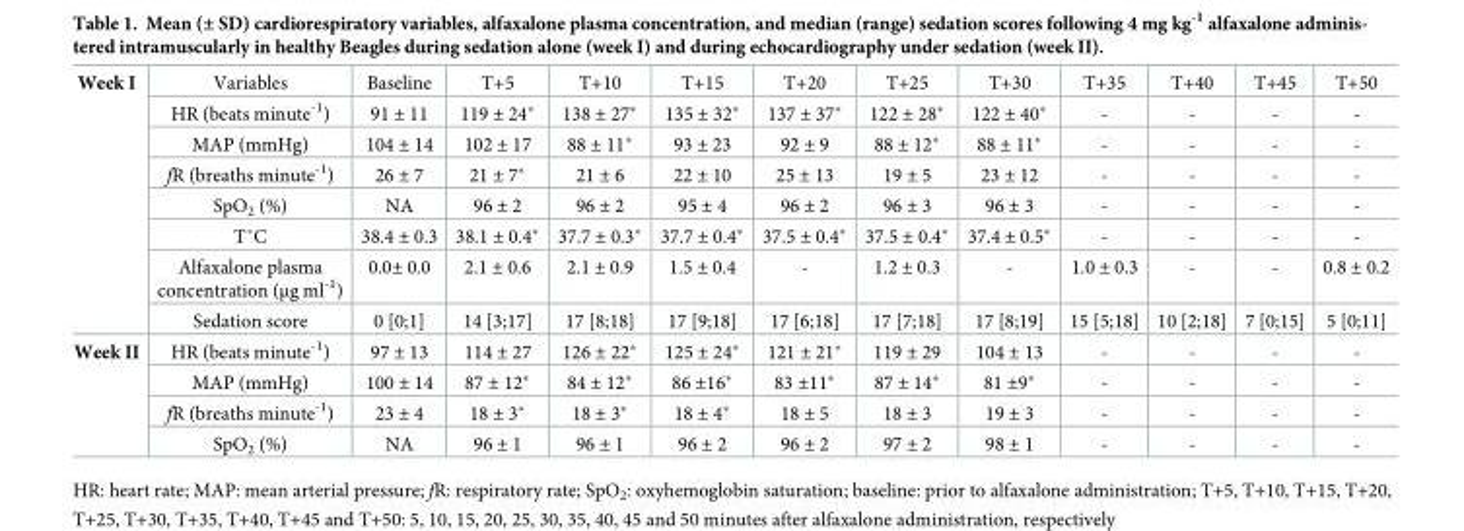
<table><tbody><tr><td rowspan="8">Week I</td><td>Variables</td><td>Baseline</td><td>T+5</td><td>T+10</td><td>T+15</td><td>T+20</td><td>T+25</td><td>T+30</td><td>T+35</td><td>T+40</td><td>T+45</td><td>T+50</td></tr><tr><td>HR (beats minute<sup>-1</sup>)</td><td>91 ± 11</td><td>119 ± 24*</td><td>138 ± 27*</td><td>135 ± 32*</td><td>137 ± 37*</td><td>122 ± 28*</td><td>122 ± 40*</td><td>-</td><td>-</td><td>-</td><td>-</td></tr><tr><td>MAP (mmHg)</td><td>104 ± 14</td><td>102 ± 17</td><td>88 ± 11*</td><td>93 ± 23</td><td>92 ± 9</td><td>88 ± 12*</td><td>88 ± 11*</td><td>-</td><td>-</td><td>-</td><td>-</td></tr><tr><td>fR (breaths minute<sup>-1</sup>)</td><td>26 ± 7</td><td>21 ± 7*</td><td>21 ± 6</td><td>22 ± 10</td><td>25 ± 13</td><td>19 ± 5</td><td>23 ± 12</td><td>-</td><td>-</td><td>-</td><td>-</td></tr><tr><td>SpO<sub>2</sub> (%)</td><td>NA</td><td>96 ± 2</td><td>96 ± 2</td><td>95 ± 4</td><td>96 ± 2</td><td>96 ± 3</td><td>96 ± 3</td><td>-</td><td>-</td><td>-</td><td>-</td></tr><tr><td>T˚C</td><td>38.4 ± 0.3</td><td>38.1 ± 0.4*</td><td>37.7 ± 0.3*</td><td>37.7 ± 0.4*</td><td>37.5 ± 0.4*</td><td>37.5 ± 0.4*</td><td>37.4 ± 0.5*</td><td>-</td><td>-</td><td>-</td><td>-</td></tr><tr><td>Alfaxalone plasma concentration (μg ml<sup>-1</sup>)</td><td>0.0± 0.0</td><td>2.1 ± 0.6</td><td>2.1 ± 0.9</td><td>1.5 ± 0.4</td><td>-</td><td>1.2 ± 0.3</td><td>-</td><td>1.0 ± 0.3</td><td>-</td><td>-</td><td>0.8 ± 0.2</td></tr><tr><td>Sedation score</td><td>0 [0;1]</td><td>14 [3;17]</td><td>17 [8;18]</td><td>17 [9;18]</td><td>17 [6;18]</td><td>17 [7;18]</td><td>17 [8;19]</td><td>15 [5;18]</td><td>10 [2;18]</td><td>7 [0;15]</td><td>5 [0;11]</td></tr><tr><td rowspan="4">Week II</td><td>HR (beats minute<sup>-1</sup>)</td><td>97 ± 13</td><td>114 ± 27</td><td>126 ± 22*</td><td>125 ± 24*</td><td>121 ± 21*</td><td>119 ± 29</td><td>104 ± 13</td><td>-</td><td>-</td><td>-</td><td>-</td></tr><tr><td>MAP (mmHg)</td><td>100 ± 14</td><td>87 ± 12*</td><td>84 ± 12*</td><td>86 ±16*</td><td>83 ±11*</td><td>87 ± 14*</td><td>81 ±9*</td><td>-</td><td>-</td><td>-</td><td>-</td></tr><tr><td>fR (breaths minute<sup>-1</sup>)</td><td>23 ± 4</td><td>18 ± 3*</td><td>18 ± 3*</td><td>18 ± 4*</td><td>18 ± 5</td><td>18 ± 3</td><td>19 ± 3</td><td>-</td><td>-</td><td>-</td><td>-</td></tr><tr><td>SpO<sub>2</sub> (%)</td><td>NA</td><td>96 ± 1</td><td>96 ± 1</td><td>96 ± 2</td><td>96 ± 2</td><td>97 ± 2</td><td>98 ± 1</td><td>-</td><td>-</td><td>-</td><td>-</td></tr></tbody></table>